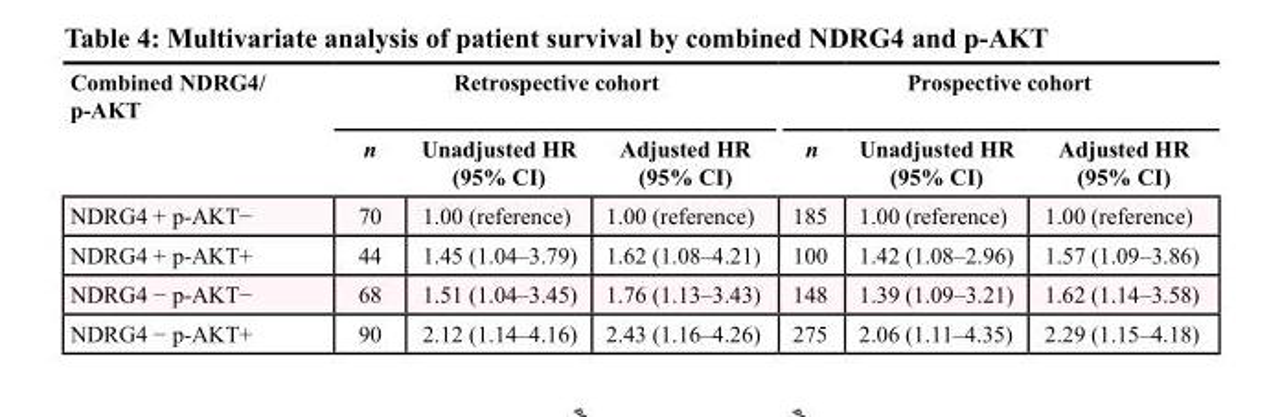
<table><thead><tr><td rowspan="2">Combined NDRG4/ p-AKT</td><td colspan="3">Retrospective cohort</td><td colspan="3">Prospective cohort</td></tr><tr><td>n</td><td>Unadjusted HR (95% CI)</td><td>Adjusted HR (95% CI)</td><td>n</td><td>Unadjusted HR (95% CI)</td><td>Adjusted HR (95% CI)</td></tr></thead><tbody><tr><td>NDRG4 + p-AKT−</td><td>70</td><td>1.00 (reference)</td><td>1.00 (reference)</td><td>185</td><td>1.00 (reference)</td><td>1.00 (reference)</td></tr><tr><td>NDRG4 + p-AKT+</td><td>44</td><td>1.45 (1.04–3.79)</td><td>1.62 (1.08–4.21)</td><td>100</td><td>1.42 (1.08–2.96)</td><td>1.57 (1.09–3.86)</td></tr><tr><td>NDRG4 − p-AKT−</td><td>68</td><td>1.51 (1.04–3.45)</td><td>1.76 (1.13–3.43)</td><td>148</td><td>1.39 (1.09–3.21)</td><td>1.62 (1.14–3.58)</td></tr><tr><td>NDRG4 − p-AKT+</td><td>90</td><td>2.12 (1.14–4.16)</td><td>2.43 (1.16–4.26)</td><td>275</td><td>2.06 (1.11–4.35)</td><td>2.29 (1.15–4.18)</td></tr></tbody></table>